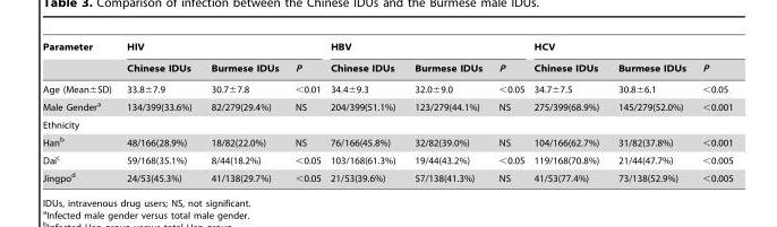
<table><thead><tr><td rowspan="2">Parameter</td><td colspan="3">HIV</td><td colspan="3">HBV</td><td colspan="3">HCV</td></tr><tr><td>Chinese IDUs</td><td>Burmese IDUs</td><td>P</td><td>Chinese IDUs</td><td>Burmese IDUs</td><td>P</td><td>Chinese IDUs</td><td>Burmese IDUs</td><td>P</td></tr></thead><tbody><tr><td>Age (Mean±SD)</td><td>33.8±7.9</td><td>30.7±7.8</td><td>&lt;0.01</td><td>34.4±9.3</td><td>32.0±9.0</td><td>&lt;0.05</td><td>34.7±7.5</td><td>30.8±6.1</td><td>&lt;0.05</td></tr><tr><td>Male Gender<sup>a</sup></td><td>134/399(33.6%)</td><td>82/279(29.4%)</td><td>NS</td><td>204/399(51.1%)</td><td>123/279(44.1%)</td><td>NS</td><td>275/399(68.9%)</td><td>145/279(52.0%)</td><td>&lt;0.001</td></tr><tr><td colspan="10">Ethnicity</td></tr><tr><td>Han<sup>b</sup></td><td>48/166(28.9%)</td><td>18/82(22.0%)</td><td>NS</td><td>76/166(45.8%)</td><td>32/82(39.0%)</td><td>NS</td><td>104/166(62.7%)</td><td>31/82(37.8%)</td><td>&lt;0.001</td></tr><tr><td>Dai<sup>c</sup></td><td>59/168(35.1%)</td><td>8/44(18.2%)</td><td>&lt;0.05</td><td>103/168(61.3%)</td><td>19/44(43.2%)</td><td>&lt;0.05</td><td>119/168(70.8%)</td><td>21/44(47.7%)</td><td>&lt;0.005</td></tr><tr><td>Jingpo<sup>d</sup></td><td>24/53(45.3%)</td><td>41/138(29.7%)</td><td>&lt;0.05</td><td>21/53(39.6%)</td><td>57/138(41.3%)</td><td>NS</td><td>41/53(77.4%)</td><td>73/138(52.9%)</td><td>&lt;0.005</td></tr></tbody></table>